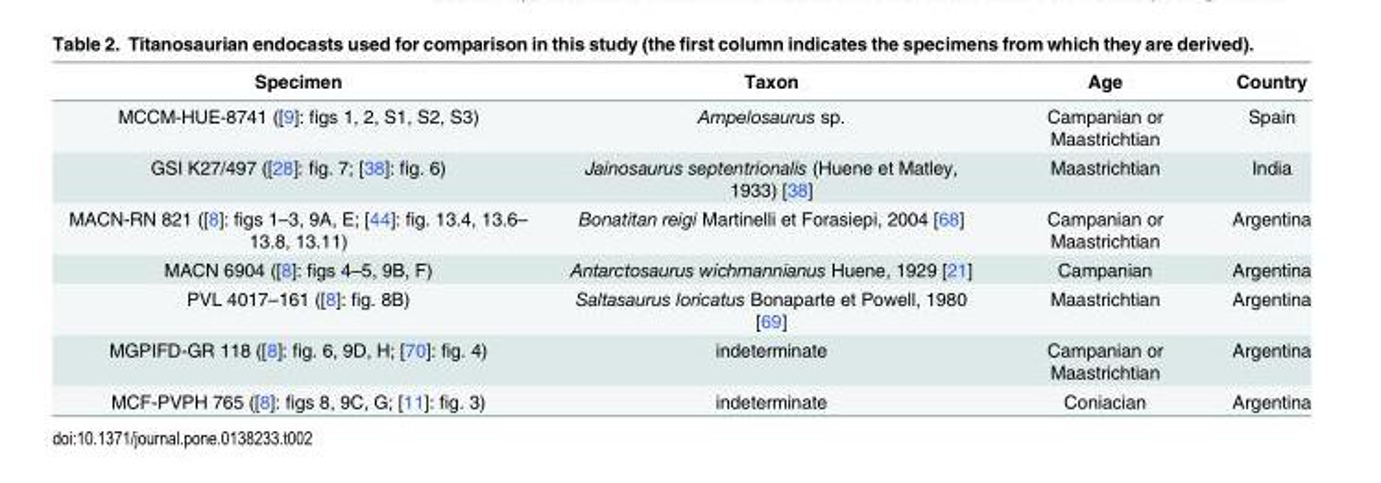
<table><thead><tr><td>Specimen</td><td>Taxon</td><td>Age</td><td>Country</td></tr></thead><tbody><tr><td>MCCM-HUE-8741 ([9]: figs 1, 2, S1, S2, S3)</td><td>Ampelosaurus sp.</td><td>Campanian or Maastrichtian</td><td>Spain</td></tr><tr><td>GSI K27/497 ([28]: fig. 7; [38]: fig. 6)</td><td>Jainosaurus septentrionalis (Huene et Matley, 1933) [38]</td><td>Maastrichtian</td><td>India</td></tr><tr><td>MACN-RN 821 ([8]: figs 1–3, 9A, E; [44]: fig. 13.4, 13.6– 13.8, 13.11)</td><td>Bonatitan reigi Martinelli et Forasiepi, 2004 [68]</td><td>Campanian or Maastrichtian</td><td>Argentina</td></tr><tr><td>MACN 6904 ([8]: figs 4–5, 9B, F)</td><td>Antarctosaurus wichmannianus Huene, 1929 [21]</td><td>Campanian</td><td>Argentina</td></tr><tr><td>PVL 4017–161 ([8]: fig. 8B)</td><td>Saltasaurus loricatus Bonaparte et Powell, 1980 [69]</td><td>Maastrichtian</td><td>Argentina</td></tr><tr><td>MGPIFD-GR 118 ([8]: fig. 6, 9D, H; [70]: fig. 4)</td><td>indeterminate</td><td>Campanian or Maastrichtian</td><td>Argentina</td></tr><tr><td>MCF-PVPH 765 ([8]: figs 8, 9C, G; [11]: fig. 3)</td><td>indeterminate</td><td>Coniacian</td><td>Argentina</td></tr></tbody></table>